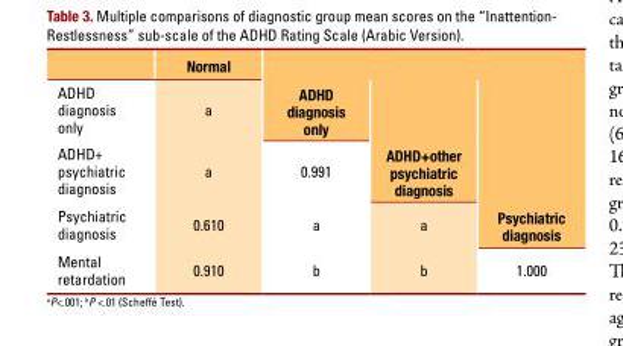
<table><thead><tr><td></td><td>Normal</td><td></td><td></td><td></td></tr></thead><tbody><tr><td>Adhd diagnosis only</td><td>a</td><td>ADHD diagnosis only</td><td></td><td></td></tr><tr><td>Adhd+ psychiatric diagnosis</td><td>a</td><td>0.991</td><td>ADHD+other psychiatric diagnosis</td><td></td></tr><tr><td>Psychiatric diagnosis</td><td>0.610</td><td>a</td><td>a</td><td>Psychiatric diagnosis</td></tr><tr><td>Mental retardation</td><td>0.910</td><td>b</td><td>b</td><td>1.000</td></tr></tbody></table>